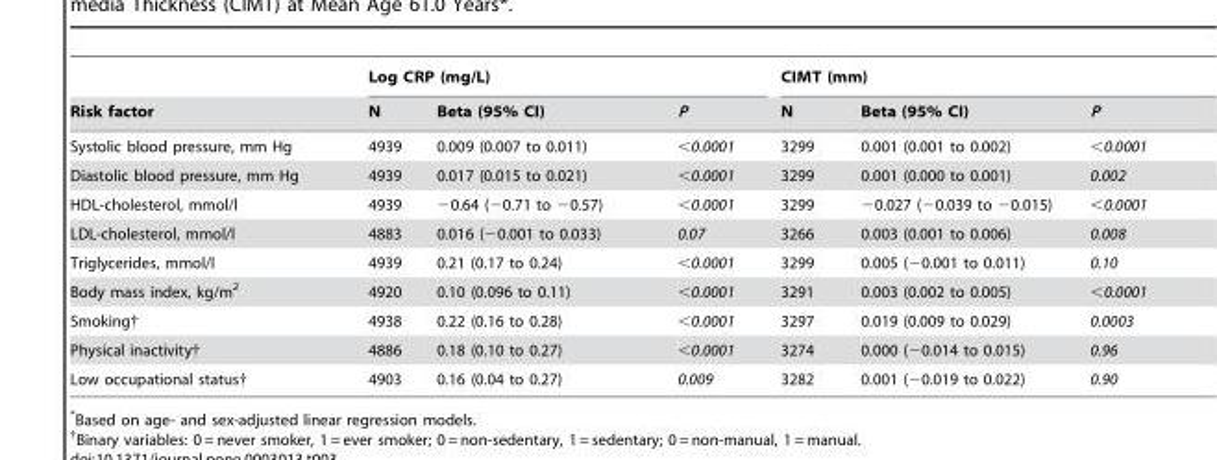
<table><thead><tr><td rowspan="2">Risk factor</td><td colspan="3">Log CRP (mg/L)</td><td colspan="3">CIMT (mm)</td></tr><tr><td>N</td><td>Beta (95% CI)</td><td>P</td><td>N</td><td>Beta (95% CI)</td><td>P</td></tr></thead><tbody><tr><td>Systolic blood pressure, mm Hg</td><td>4939</td><td>0.009 (0.007 to 0.011)</td><td>&lt;0.0001</td><td>3299</td><td>0.001 (0.001 to 0.002)</td><td>&lt;0.0001</td></tr><tr><td>Diastolic blood pressure, mm Hg</td><td>4939</td><td>0.017 (0.015 to 0.021)</td><td>&lt;0.0001</td><td>3299</td><td>0.001 (0.000 to 0.001)</td><td>0.002</td></tr><tr><td>HDL-cholesterol, mmol/l</td><td>4939</td><td>−0.64 (−0.71 to −0.57)</td><td>&lt;0.0001</td><td>3299</td><td>−0.027 (−0.039 to −0.015)</td><td>&lt;0.0001</td></tr><tr><td>LDL-cholesterol, mmol/l</td><td>4883</td><td>0.016 (−0.001 to 0.033)</td><td>0.07</td><td>3266</td><td>0.003 (0.001 to 0.006)</td><td>0.008</td></tr><tr><td>Triglycerides, mmol/l</td><td>4939</td><td>0.21 (0.17 to 0.24)</td><td>&lt;0.0001</td><td>3299</td><td>0.005 (−0.001 to 0.011)</td><td>0.10</td></tr><tr><td>Body mass index, kg/m<sup>2</sup></td><td>4920</td><td>0.10 (0.096 to 0.11)</td><td>&lt;0.0001</td><td>3291</td><td>0.003 (0.002 to 0.005)</td><td>&lt;0.0001</td></tr><tr><td>Smoking†</td><td>4938</td><td>0.22 (0.16 to 0.28)</td><td>&lt;0.0001</td><td>3297</td><td>0.019 (0.009 to 0.029)</td><td>0.0003</td></tr><tr><td>Physical inactivity†</td><td>4886</td><td>0.18 (0.10 to 0.27)</td><td>&lt;0.0001</td><td>3274</td><td>0.000 (−0.014 to 0.015)</td><td>0.96</td></tr><tr><td>Low occupational status†</td><td>4903</td><td>0.16 (0.04 to 0.27)</td><td>0.009</td><td>3282</td><td>0.001 (−0.019 to 0.022)</td><td>0.90</td></tr></tbody></table>